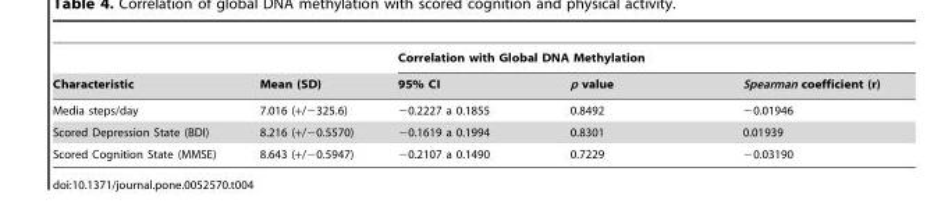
<table><thead><tr><td rowspan="2">Characteristic</td><td rowspan="2">Mean (SD)</td><td colspan="3">Correlation with Global DNA Methylation</td></tr><tr><td>95% CI</td><td>p value</td><td>Spearman coefficient (r)</td></tr></thead><tbody><tr><td>Media steps/day</td><td>7.016 (+/−325.6)</td><td>−0.2227 a 0.1855</td><td>0.8492</td><td>−0.01946</td></tr><tr><td>Scored Depression State (BDI)</td><td>8.216 (+/−0.5570)</td><td>−0.1619 a 0.1994</td><td>0.8301</td><td>0.01939</td></tr><tr><td>Scored Cognition State (MMSE)</td><td>8.643 (+/−0.5947)</td><td>−0.2107 a 0.1490</td><td>0.7229</td><td>−0.03190</td></tr></tbody></table>